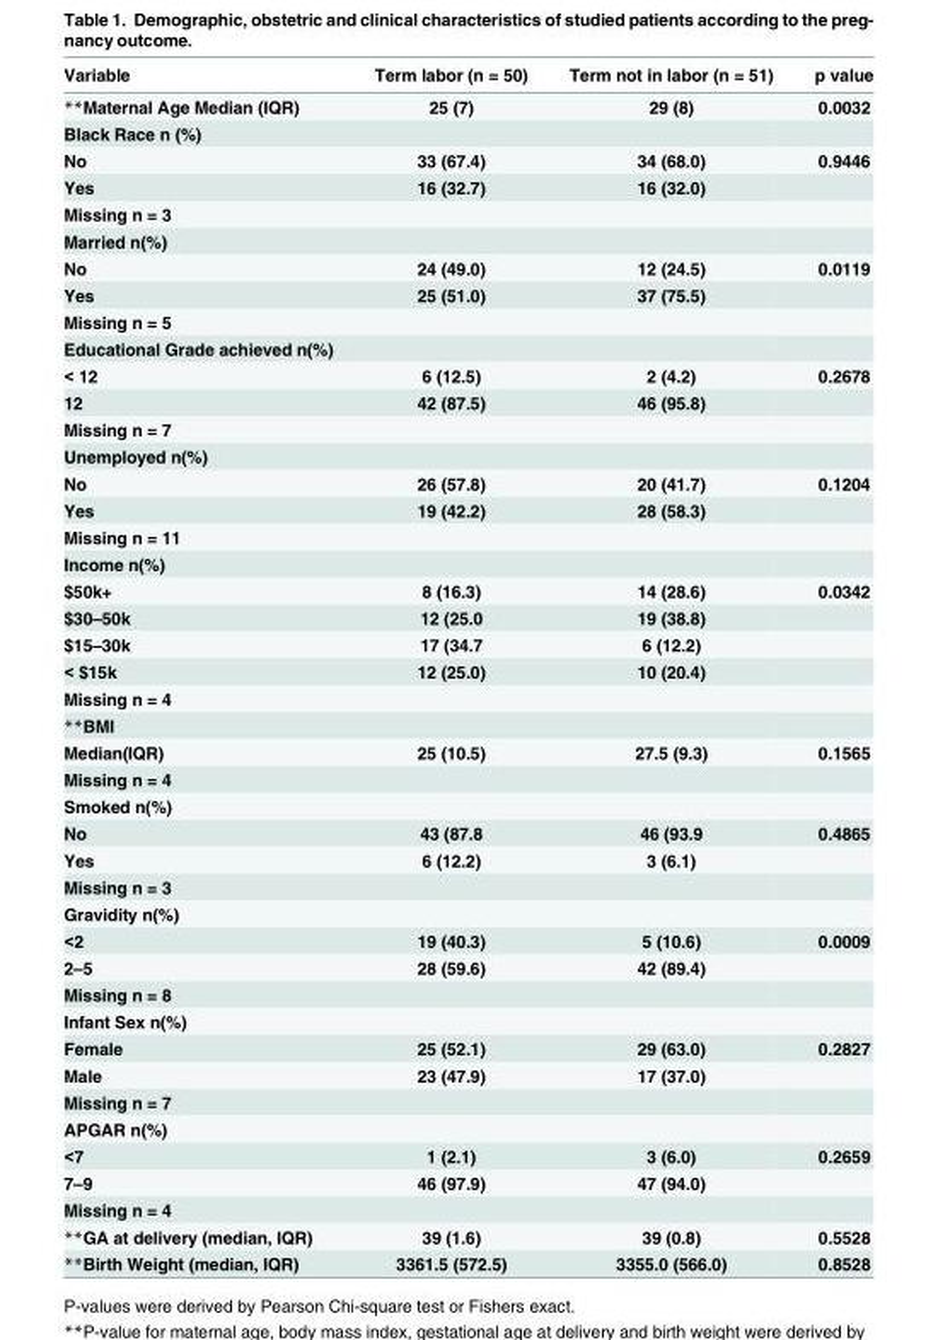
<table><thead><tr><td>Variable</td><td>Term labor (n = 50)</td><td>Term not in labor (n = 51)</td><td>p value</td></tr></thead><tbody><tr><td>**Maternal Age Median (IQR)</td><td>25 (7)</td><td>29 (8)</td><td>0.0032</td></tr><tr><td colspan="4">Black Race n (%)</td></tr><tr><td>No</td><td>33 (67.4)</td><td>34 (68.0)</td><td>0.9446</td></tr><tr><td>Yes</td><td>16 (32.7)</td><td>16 (32.0)</td><td></td></tr><tr><td colspan="4">Missing n = 3</td></tr><tr><td colspan="4">Married n(%)</td></tr><tr><td>No</td><td>24 (49.0)</td><td>12 (24.5)</td><td>0.0119</td></tr><tr><td>Yes</td><td>25 (51.0)</td><td>37 (75.5)</td><td></td></tr><tr><td colspan="4">Missing n = 5</td></tr><tr><td colspan="4">Educational Grade achieved n(%)</td></tr><tr><td>&lt; 12</td><td>6 (12.5)</td><td>2 (4.2)</td><td>0.2678</td></tr><tr><td>12</td><td>42 (87.5)</td><td>46 (95.8)</td><td></td></tr><tr><td colspan="4">Missing n = 7</td></tr><tr><td colspan="4">Unemployed n(%)</td></tr><tr><td>No</td><td>26 (57.8)</td><td>20 (41.7)</td><td>0.1204</td></tr><tr><td>Yes</td><td>19 (42.2)</td><td>28 (58.3)</td><td></td></tr><tr><td colspan="4">Missing n = 11</td></tr><tr><td colspan="4">Income n(%)</td></tr><tr><td>$50k+</td><td>8 (16.3)</td><td>14 (28.6)</td><td>0.0342</td></tr><tr><td>$30–50k</td><td>12 (25.0</td><td>19 (38.8)</td><td></td></tr><tr><td>$15–30k</td><td>17 (34.7</td><td>6 (12.2)</td><td></td></tr><tr><td>&lt; $15k</td><td>12 (25.0)</td><td>10 (20.4)</td><td></td></tr><tr><td colspan="4">Missing n = 4</td></tr><tr><td colspan="4">**BMI</td></tr><tr><td>Median(IQR)</td><td>25 (10.5)</td><td>27.5 (9.3)</td><td>0.1565</td></tr><tr><td colspan="4">Missing n = 4</td></tr><tr><td colspan="4">Smoked n(%)</td></tr><tr><td>No</td><td>43 (87.8</td><td>46 (93.9</td><td>0.4865</td></tr><tr><td>Yes</td><td>6 (12.2)</td><td>3 (6.1)</td><td></td></tr><tr><td colspan="4">Missing n = 3</td></tr><tr><td colspan="4">Gravidity n(%)</td></tr><tr><td>&lt;2</td><td>19 (40.3)</td><td>5 (10.6)</td><td>0.0009</td></tr><tr><td>2–5</td><td>28 (59.6)</td><td>42 (89.4)</td><td></td></tr><tr><td colspan="4">Missing n = 8</td></tr><tr><td colspan="4">Infant Sex n(%)</td></tr><tr><td>Female</td><td>25 (52.1)</td><td>29 (63.0)</td><td>0.2827</td></tr><tr><td>Male</td><td>23 (47.9)</td><td>17 (37.0)</td><td></td></tr><tr><td colspan="4">Missing n = 7</td></tr><tr><td colspan="4">APGAR n(%)</td></tr><tr><td>&lt;7</td><td>1 (2.1)</td><td>3 (6.0)</td><td>0.2659</td></tr><tr><td>7–9</td><td>46 (97.9)</td><td>47 (94.0)</td><td></td></tr><tr><td colspan="4">Missing n = 4</td></tr><tr><td>**GA at delivery (median, IQR)</td><td>39 (1.6)</td><td>39 (0.8)</td><td>0.5528</td></tr><tr><td>**Birth Weight (median, IQR)</td><td>3361.5 (572.5)</td><td>3355.0 (566.0)</td><td>0.8528</td></tr></tbody></table>